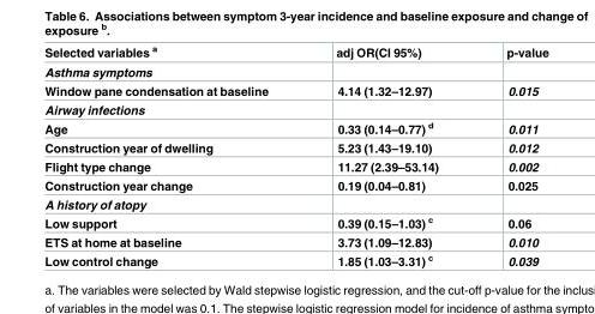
<table><thead><tr><td>Selected variables <sup>a</sup></td><td>adj OR(CI 95%)</td><td>p-value</td></tr></thead><tbody><tr><td colspan="3">Asthma symptoms</td></tr><tr><td>Window pane condensation at baseline</td><td>4.14 (1.32–12.97)</td><td>0.015</td></tr><tr><td colspan="3">Airway infections</td></tr><tr><td>Age</td><td>0.33 (0.14–0.77) <sup>d</sup></td><td>0.011</td></tr><tr><td>Construction year of dwelling</td><td>5.23 (1.43–19.10)</td><td>0.012</td></tr><tr><td>Flight type change</td><td>11.27 (2.39–53.14)</td><td>0.002</td></tr><tr><td>Construction year change</td><td>0.19 (0.04–0.81)</td><td>0.025</td></tr><tr><td colspan="3">A history of atopy</td></tr><tr><td>Low support</td><td>0.39 (0.15–1.03) <sup>c</sup></td><td>0.06</td></tr><tr><td>ETS at home at baseline</td><td>3.73 (1.09–12.83)</td><td>0.010</td></tr><tr><td>Low control change</td><td>1.85 (1.03–3.31) <sup>c</sup></td><td>0.039</td></tr></tbody></table>